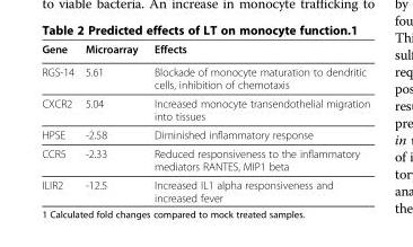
<table><thead><tr><td>Gene</td><td>Microarray</td><td>Effects</td></tr></thead><tbody><tr><td>RGS-14</td><td>5.61</td><td>Blockade of monocyte maturation to dendritic cells, inhibition of chemotaxis</td></tr><tr><td>CXCR2</td><td>5.04</td><td>Increased monocyte transendothelial migration into tissues</td></tr><tr><td>HPSE</td><td>-2.58</td><td>Diminished inflammatory response</td></tr><tr><td>CCR5</td><td>-2.33</td><td>Reduced responsiveness to the inflammatory mediators RANTES, MIP1 beta</td></tr><tr><td>ILIR2</td><td>-12.5</td><td>Increased IL1 alpha responsiveness and increased fever</td></tr></tbody></table>